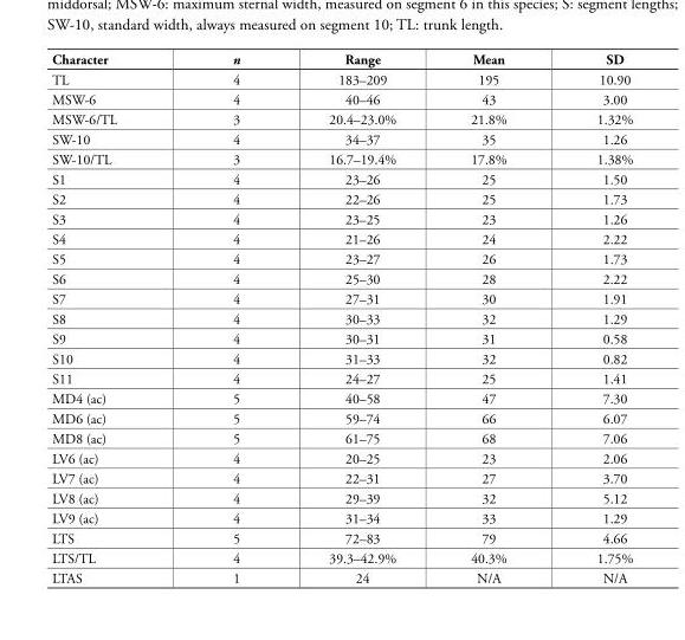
<table><thead><tr><td>Character</td><td>n</td><td>Range</td><td>Mean</td><td>SD</td></tr></thead><tbody><tr><td>TL</td><td>4</td><td>183–209</td><td>195</td><td>10.90</td></tr><tr><td>MSW-6</td><td>4</td><td>40–46</td><td>43</td><td>3.00</td></tr><tr><td>MSW-6/TL</td><td>3</td><td>20.4–23.0%</td><td>21.8%</td><td>1.32%</td></tr><tr><td>SW-10</td><td>4</td><td>34–37</td><td>35</td><td>1.26</td></tr><tr><td>SW-10/TL</td><td>3</td><td>16.7–19.4%</td><td>17.8%</td><td>1.38%</td></tr><tr><td>S1</td><td>4</td><td>23–26</td><td>25</td><td>1.50</td></tr><tr><td>S2</td><td>4</td><td>22–26</td><td>25</td><td>1.73</td></tr><tr><td>S3</td><td>4</td><td>23–25</td><td>23</td><td>1.26</td></tr><tr><td>S4</td><td>4</td><td>21–26</td><td>24</td><td>2.22</td></tr><tr><td>S5</td><td>4</td><td>23–27</td><td>26</td><td>1.73</td></tr><tr><td>S6</td><td>4</td><td>25–30</td><td>28</td><td>2.22</td></tr><tr><td>S7</td><td>4</td><td>27–31</td><td>30</td><td>1.91</td></tr><tr><td>S8</td><td>4</td><td>30–33</td><td>32</td><td>1.29</td></tr><tr><td>S9</td><td>4</td><td>30–31</td><td>31</td><td>0.58</td></tr><tr><td>S10</td><td>4</td><td>31–33</td><td>32</td><td>0.82</td></tr><tr><td>S11</td><td>4</td><td>24–27</td><td>25</td><td>1.41</td></tr><tr><td>MD4 (ac)</td><td>5</td><td>40–58</td><td>47</td><td>7.30</td></tr><tr><td>MD6 (ac)</td><td>5</td><td>59–74</td><td>66</td><td>6.07</td></tr><tr><td>MD8 (ac)</td><td>5</td><td>61–75</td><td>68</td><td>7.06</td></tr><tr><td>LV6 (ac)</td><td>4</td><td>20–25</td><td>23</td><td>2.06</td></tr><tr><td>LV7 (ac)</td><td>4</td><td>22–31</td><td>27</td><td>3.70</td></tr><tr><td>LV8 (ac)</td><td>4</td><td>29–39</td><td>32</td><td>5.12</td></tr><tr><td>LV9 (ac)</td><td>4</td><td>31–34</td><td>33</td><td>1.29</td></tr><tr><td>LTS</td><td>5</td><td>72–83</td><td>79</td><td>4.66</td></tr><tr><td>LTS/TL</td><td>4</td><td>39.3–42.9%</td><td>40.3%</td><td>1.75%</td></tr><tr><td>LTAS</td><td>1</td><td>24</td><td>N/A</td><td>N/A</td></tr></tbody></table>